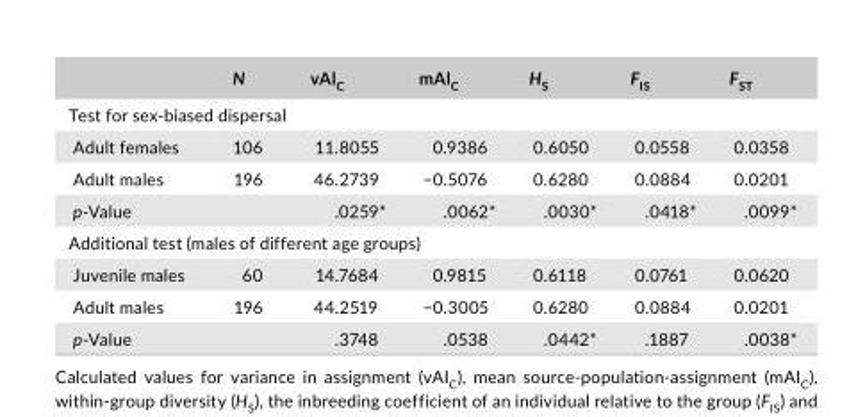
<table><thead><tr><td></td><td>N</td><td>vAl<sub>C</sub></td><td>mAl<sub>C</sub></td><td>H<sub>S</sub></td><td>F<sub>IS</sub></td><td>F<sub>ST</sub></td></tr></thead><tbody><tr><td colspan="7">Test for sex- biased dispersal</td></tr><tr><td>Adult females</td><td>106</td><td>11.8055</td><td>0.9386</td><td>0.6050</td><td>0.0558</td><td>0.0358</td></tr><tr><td>Adult males</td><td>196</td><td>46.2739</td><td>−0.5076</td><td>0.6280</td><td>0.0884</td><td>0.0201</td></tr><tr><td colspan="2">p- Value</td><td>.0259*</td><td>.0062*</td><td>.0030*</td><td>.0418*</td><td>.0099*</td></tr><tr><td colspan="7">Additional test (males of different age groups)</td></tr><tr><td>Juvenile males</td><td>60</td><td>14.7684</td><td>0.9815</td><td>0.6118</td><td>0.0761</td><td>0.0620</td></tr><tr><td>Adult males</td><td>196</td><td>44.2519</td><td>−0.3005</td><td>0.6280</td><td>0.0884</td><td>0.0201</td></tr><tr><td colspan="2">p- Value</td><td>.3748</td><td>.0538</td><td>.0442*</td><td>.1887</td><td>.0038*</td></tr></tbody></table>